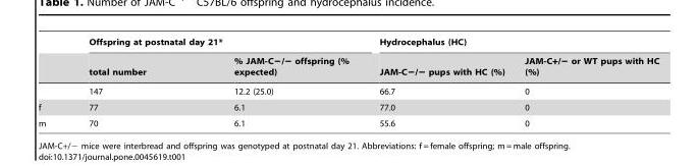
<table><thead><tr><td rowspan="2"></td><td colspan="2">Offspring at postnatal day 21*</td><td colspan="2">Hydrocephalus (HC)</td></tr><tr><td>total number</td><td>% JAM-C−/− offspring (% expected)</td><td>JAM-C−/− pups with HC (%)</td><td>JAM-C+/− or WT pups with HC (%)</td></tr></thead><tbody><tr><td></td><td>147</td><td>12.2 (25.0)</td><td>66.7</td><td>0</td></tr><tr><td>f</td><td>77</td><td>6.1</td><td>77.0</td><td>0</td></tr><tr><td>m</td><td>70</td><td>6.1</td><td>55.6</td><td>0</td></tr></tbody></table>